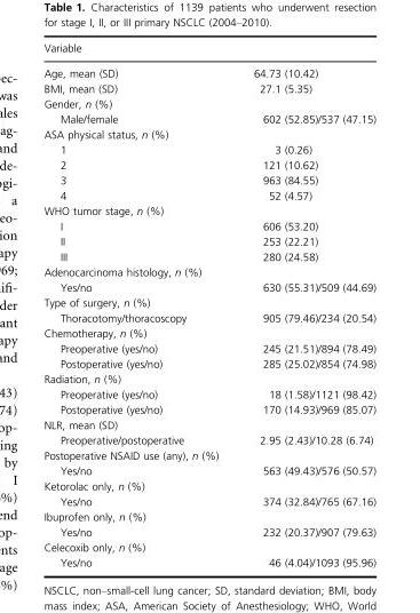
<table><thead><tr><td>Variable</td><td></td></tr></thead><tbody><tr><td>Age, mean (SD)</td><td>64.73 (10.42)</td></tr><tr><td>BMI, mean (SD)</td><td>27.1 (5.35)</td></tr><tr><td colspan="2">Gender, n (%)</td></tr><tr><td>Male/female</td><td>602 (52.85)/537 (47.15)</td></tr><tr><td colspan="2">ASA physical status, n (%)</td></tr><tr><td>1</td><td>3 (0.26)</td></tr><tr><td>2</td><td>121 (10.62)</td></tr><tr><td>3</td><td>963 (84.55)</td></tr><tr><td>4</td><td>52 (4.57)</td></tr><tr><td colspan="2">WHO tumor stage, n (%)</td></tr><tr><td>I</td><td>606 (53.20)</td></tr><tr><td>II</td><td>253 (22.21)</td></tr><tr><td>III</td><td>280 (24.58)</td></tr><tr><td colspan="2">Adenocarcinoma histology, n (%)</td></tr><tr><td>Yes/no</td><td>630 (55.31)/509 (44.69)</td></tr><tr><td colspan="2">Type of surgery, n (%)</td></tr><tr><td>Thoracotomy/thoracoscopy</td><td>905 (79.46)/234 (20.54)</td></tr><tr><td colspan="2">Chemotherapy, n (%)</td></tr><tr><td>Preoperative (yes/no)</td><td>245 (21.51)/894 (78.49)</td></tr><tr><td>Postoperative (yes/no)</td><td>285 (25.02)/854 (74.98)</td></tr><tr><td colspan="2">Radiation, n (%)</td></tr><tr><td>Preoperative (yes/no)</td><td>18 (1.58)/1121 (98.42)</td></tr><tr><td>Postoperative (yes/no)</td><td>170 (14.93)/969 (85.07)</td></tr><tr><td colspan="2">NLR, mean (SD)</td></tr><tr><td>Preoperative/postoperative</td><td>2.95 (2.43)/10.28 (6.74)</td></tr><tr><td colspan="2">Postoperative NSAID use (any), n (%)</td></tr><tr><td>Yes/no</td><td>563 (49.43)/576 (50.57)</td></tr><tr><td colspan="2">Ketorolac only, n (%)</td></tr><tr><td>Yes/no</td><td>374 (32.84)/765 (67.16)</td></tr><tr><td colspan="2">Ibuprofen only, n (%)</td></tr><tr><td>Yes/no</td><td>232 (20.37)/907 (79.63)</td></tr><tr><td colspan="2">Celecoxib only, n (%)</td></tr><tr><td>Yes/no</td><td>46 (4.04)/1093 (95.96)</td></tr></tbody></table>